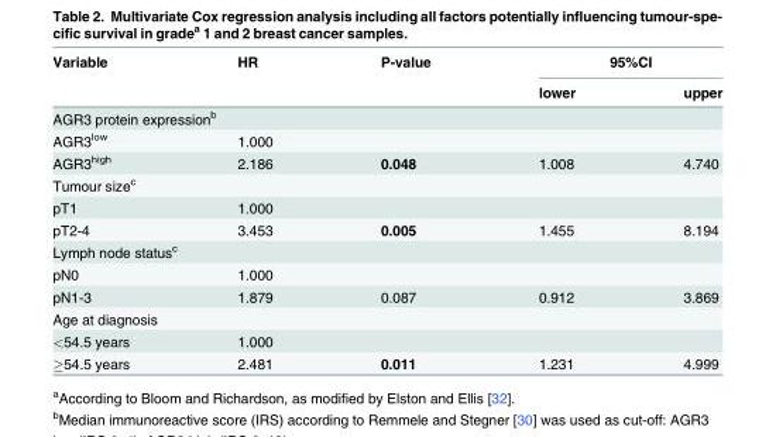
<table><thead><tr><td rowspan="2">Variable</td><td rowspan="2">HR</td><td rowspan="2">P-value</td><td colspan="2">95%CI</td></tr><tr><td>lower</td><td>upper</td></tr></thead><tbody><tr><td colspan="5">AGR3 protein expression<sup>b</sup></td></tr><tr><td>AGR3<sup>low</sup></td><td>1.000</td><td></td><td></td><td></td></tr><tr><td>AGR3<sup>high</sup></td><td>2.186</td><td>0.048</td><td>1.008</td><td>4.740</td></tr><tr><td colspan="5">Tumour size<sup>c</sup></td></tr><tr><td>pT1</td><td>1.000</td><td></td><td></td><td></td></tr><tr><td>pT2-4</td><td>3.453</td><td>0.005</td><td>1.455</td><td>8.194</td></tr><tr><td colspan="5">Lymph node status<sup>c</sup></td></tr><tr><td>pN0</td><td>1.000</td><td></td><td></td><td></td></tr><tr><td>pN1-3</td><td>1.879</td><td>0.087</td><td>0.912</td><td>3.869</td></tr><tr><td colspan="5">Age at diagnosis</td></tr><tr><td>&lt;54.5 years</td><td>1.000</td><td></td><td></td><td></td></tr><tr><td>≥54.5 years</td><td>2.481</td><td>0.011</td><td>1.231</td><td>4.999</td></tr></tbody></table>